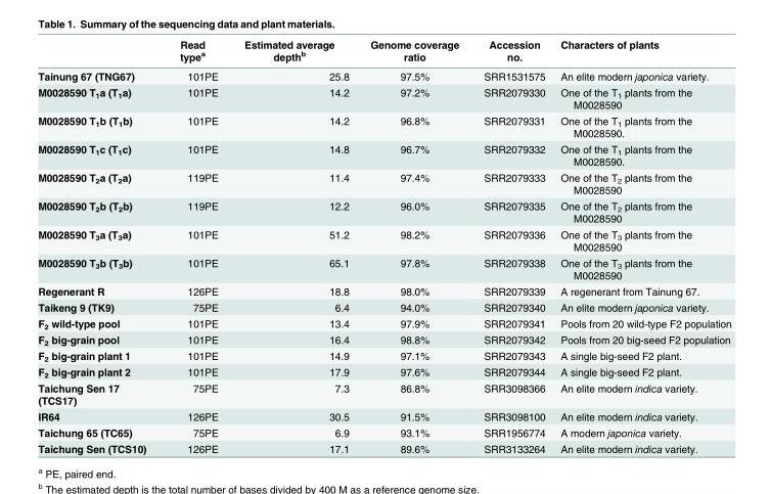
<table><thead><tr><td></td><td>Read type<sup>a</sup></td><td>Estimated average depth<sup>b</sup></td><td>Genome coverage ratio</td><td>Accession no.</td><td>Characters of plants</td></tr></thead><tbody><tr><td>Tainung 67 (TNG67)</td><td>101PE</td><td>25.8</td><td>97.5%</td><td>SRR1531575</td><td>An elite modern japonica variety.</td></tr><tr><td>M0028590 T<sub>1</sub>a (T<sub>1</sub>a)</td><td>101PE</td><td>14.2</td><td>97.2%</td><td>SRR2079330</td><td>One of the T<sub>1</sub> plants from the M0028590</td></tr><tr><td>M0028590 T<sub>1</sub>b (T<sub>1</sub>b)</td><td>101PE</td><td>14.2</td><td>96.8%</td><td>SRR2079331</td><td>One of the T<sub>1</sub> plants from the M0028590.</td></tr><tr><td>M0028590 T<sub>1</sub>c (T<sub>1</sub>c)</td><td>101PE</td><td>14.8</td><td>96.7%</td><td>SRR2079332</td><td>One of the T<sub>1</sub> plants from the M0028590.</td></tr><tr><td>M0028590 T<sub>2</sub>a (T<sub>2</sub>a)</td><td>119PE</td><td>11.4</td><td>97.4%</td><td>SRR2079333</td><td>One of the T<sub>2</sub> plants from the M0028590</td></tr><tr><td>M0028590 T<sub>2</sub>b (T<sub>2</sub>b)</td><td>119PE</td><td>12.2</td><td>96.0%</td><td>SRR2079335</td><td>One of the T<sub>2</sub> plants from the M0028590</td></tr><tr><td>M0028590 T<sub>3</sub>a (T<sub>3</sub>a)</td><td>101PE</td><td>51.2</td><td>98.2%</td><td>SRR2079336</td><td>One of the T<sub>3</sub> plants from the M0028590</td></tr><tr><td>M0028590 T<sub>3</sub>b (T<sub>3</sub>b)</td><td>101PE</td><td>65.1</td><td>97.8%</td><td>SRR2079338</td><td>One of the T<sub>3</sub> plants from the M0028590</td></tr><tr><td>Regenerant R</td><td>126PE</td><td>18.8</td><td>98.0%</td><td>SRR2079339</td><td>A regenerant from Tainung 67.</td></tr><tr><td>Taikeng 9 (TK9)</td><td>75PE</td><td>6.4</td><td>94.0%</td><td>SRR2079340</td><td>An elite modern japonica variety.</td></tr><tr><td>F<sub>2</sub> wild-type pool</td><td>101PE</td><td>13.4</td><td>97.9%</td><td>SRR2079341</td><td>Pools from 20 wild-type F2 population</td></tr><tr><td>F<sub>2</sub> big-grain pool</td><td>101PE</td><td>16.4</td><td>98.8%</td><td>SRR2079342</td><td>Pools from 20 big-seed F2 population</td></tr><tr><td>F<sub>2</sub> big-grain plant 1</td><td>101PE</td><td>14.9</td><td>97.1%</td><td>SRR2079343</td><td>A single big-seed F2 plant.</td></tr><tr><td>F<sub>2</sub> big-grain plant 2</td><td>101PE</td><td>17.9</td><td>97.6%</td><td>SRR2079344</td><td>A single big-seed F2 plant.</td></tr><tr><td>Taichung Sen 17 (TCS17)</td><td>75PE</td><td>7.3</td><td>86.8%</td><td>SRR3098366</td><td>An elite modern indica variety.</td></tr><tr><td>IR64</td><td>126PE</td><td>30.5</td><td>91.5%</td><td>SRR3098100</td><td>An elite modern indica variety.</td></tr><tr><td>Taichung 65 (TC65)</td><td>75PE</td><td>6.9</td><td>93.1%</td><td>SRR1956774</td><td>A modern japonica variety.</td></tr><tr><td>Taichung Sen (TCS10)</td><td>126PE</td><td>17.1</td><td>89.6%</td><td>SRR3133264</td><td>An elite modern indica variety.</td></tr></tbody></table>